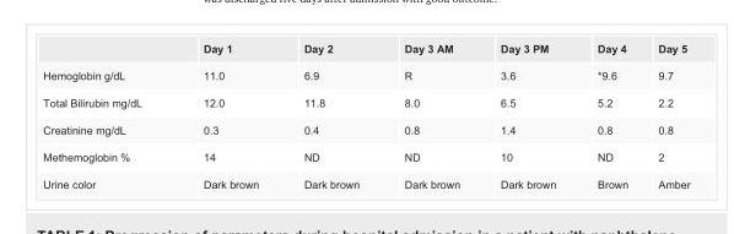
<table><thead><tr><td></td><td>Day 1</td><td>Day 2</td><td>Day 3 AM</td><td>Day 3 PM</td><td>Day 4</td><td>Day 5</td></tr></thead><tbody><tr><td>Hemoglobin g/dL</td><td>11.0</td><td>6.9</td><td>R</td><td>3.6</td><td>*9.6</td><td>9.7</td></tr><tr><td>Total Bilirubin mg/dL</td><td>12.0</td><td>11.8</td><td>8.0</td><td>6.5</td><td>5.2</td><td>2.2</td></tr><tr><td>Creatinine mg/dL</td><td>0.3</td><td>0.4</td><td>0.8</td><td>1.4</td><td>0.8</td><td>0.8</td></tr><tr><td>Methemoglobin %</td><td>14</td><td>ND</td><td>ND</td><td>10</td><td>ND</td><td>2</td></tr><tr><td>Urine color</td><td>Dark brown</td><td>Dark brown</td><td>Dark brown</td><td>Dark brown</td><td>Brown</td><td>Amber</td></tr></tbody></table>